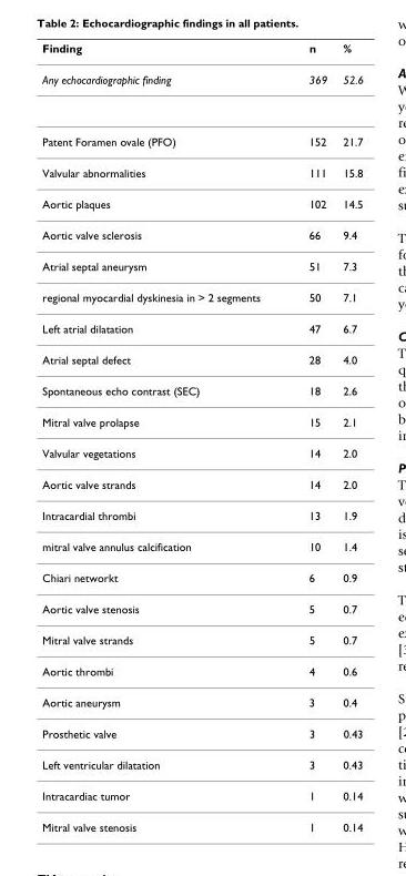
<table><thead><tr><td>Finding</td><td>n</td><td>%</td></tr></thead><tbody><tr><td>Any echocardiographic finding</td><td>369</td><td>52.6</td></tr><tr><td>Patent Foramen ovale (PFO)</td><td>152</td><td>21.7</td></tr><tr><td>Valvular abnormalities</td><td>111</td><td>15.8</td></tr><tr><td>Aortic plaques</td><td>102</td><td>14.5</td></tr><tr><td>Aortic valve sclerosis</td><td>66</td><td>9.4</td></tr><tr><td>Atrial septal aneurysm</td><td>51</td><td>7.3</td></tr><tr><td>regional myocardial dyskinesia in &gt; 2 segments</td><td>50</td><td>7.1</td></tr><tr><td>Left atrial dilatation</td><td>47</td><td>6.7</td></tr><tr><td>Atrial septal defect</td><td>28</td><td>4.0</td></tr><tr><td>Spontaneous echo contrast (SEC)</td><td>18</td><td>2.6</td></tr><tr><td>Mitral valve prolapse</td><td>15</td><td>2.1</td></tr><tr><td>Valvular vegetations</td><td>14</td><td>2.0</td></tr><tr><td>Aortic valve strands</td><td>14</td><td>2.0</td></tr><tr><td>Intracardial thrombi</td><td>13</td><td>1.9</td></tr><tr><td>mitral valve annulus calcification</td><td>10</td><td>1.4</td></tr><tr><td>Chiari networkt</td><td>6</td><td>0.9</td></tr><tr><td>Aortic valve stenosis</td><td>5</td><td>0.7</td></tr><tr><td>Mitral valve strands</td><td>5</td><td>0.7</td></tr><tr><td>Aortic thrombi</td><td>4</td><td>0.6</td></tr><tr><td>Aortic aneurysm</td><td>3</td><td>0.4</td></tr><tr><td>Prosthetic valve</td><td>3</td><td>0.43</td></tr><tr><td>Left ventricular dilatation</td><td>3</td><td>0.43</td></tr><tr><td>Intracardiac tumor</td><td>1</td><td>0.14</td></tr><tr><td>Mitral valve stenosis</td><td>1</td><td>0.14</td></tr></tbody></table>